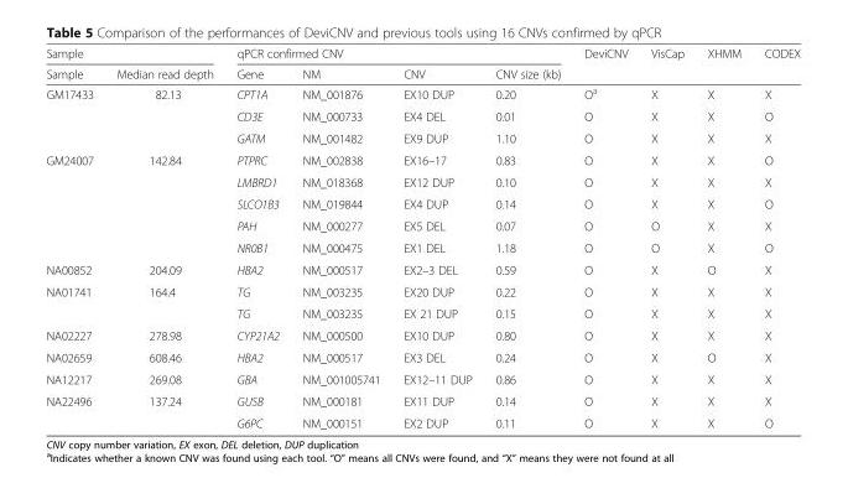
<table><thead><tr><td colspan="2">Sample</td><td colspan="4">qPCR confirmed CNV</td><td rowspan="2">DeviCNV</td><td rowspan="2">VisCap</td><td rowspan="2">XHMM</td><td rowspan="2">CODEX</td></tr><tr><td>Sample</td><td>Median read depth</td><td>Gene</td><td>NM</td><td>CNV</td><td>CNV size (kb)</td></tr></thead><tbody><tr><td rowspan="3">GM17433</td><td rowspan="3">82.13</td><td>CPT1A</td><td>NM_001876</td><td>EX10 DUP</td><td>0.20</td><td>O<sup>a</sup></td><td>X</td><td>X</td><td>X</td></tr><tr><td>CD3E</td><td>NM_000733</td><td>EX4 DEL</td><td>0.01</td><td>O</td><td>X</td><td>X</td><td>O</td></tr><tr><td>GATM</td><td>NM_001482</td><td>EX9 DUP</td><td>1.10</td><td>O</td><td>X</td><td>X</td><td>X</td></tr><tr><td rowspan="5">GM24007</td><td rowspan="5">142.84</td><td>PTPRC</td><td>NM_002838</td><td>EX16–17</td><td>0.83</td><td>O</td><td>X</td><td>X</td><td>O</td></tr><tr><td>LMBRD1</td><td>NM_018368</td><td>EX12 DUP</td><td>0.10</td><td>O</td><td>X</td><td>X</td><td>X</td></tr><tr><td>SLCO1B3</td><td>NM_019844</td><td>EX4 DUP</td><td>0.14</td><td>O</td><td>X</td><td>X</td><td>O</td></tr><tr><td>PAH</td><td>NM_000277</td><td>EX5 DEL</td><td>0.07</td><td>O</td><td>O</td><td>X</td><td>X</td></tr><tr><td>NR0B1</td><td>NM_000475</td><td>EX1 DEL</td><td>1.18</td><td>O</td><td>O</td><td>X</td><td>O</td></tr><tr><td>NA00852</td><td>204.09</td><td>HBA2</td><td>NM_000517</td><td>EX2–3 DEL</td><td>0.59</td><td>O</td><td>X</td><td>O</td><td>X</td></tr><tr><td rowspan="2">NA01741</td><td rowspan="2">164.4</td><td>TG</td><td>NM_003235</td><td>EX20 DUP</td><td>0.22</td><td>O</td><td>X</td><td>X</td><td>X</td></tr><tr><td>TG</td><td>NM_003235</td><td>EX 21 DUP</td><td>0.15</td><td>O</td><td>X</td><td>X</td><td>X</td></tr><tr><td>NA02227</td><td>278.98</td><td>CYP21A2</td><td>NM_000500</td><td>EX10 DUP</td><td>0.80</td><td>O</td><td>X</td><td>X</td><td>X</td></tr><tr><td>NA02659</td><td>608.46</td><td>HBA2</td><td>NM_000517</td><td>EX3 DEL</td><td>0.24</td><td>O</td><td>X</td><td>O</td><td>X</td></tr><tr><td>NA12217</td><td>269.08</td><td>GBA</td><td>NM_001005741</td><td>EX12–11 DUP</td><td>0.86</td><td>O</td><td>X</td><td>X</td><td>X</td></tr><tr><td rowspan="2">NA22496</td><td rowspan="2">137.24</td><td>GUSB</td><td>NM_000181</td><td>EX11 DUP</td><td>0.14</td><td>O</td><td>X</td><td>X</td><td>X</td></tr><tr><td>G6PC</td><td>NM_000151</td><td>EX2 DUP</td><td>0.11</td><td>O</td><td>X</td><td>X</td><td>O</td></tr></tbody></table>